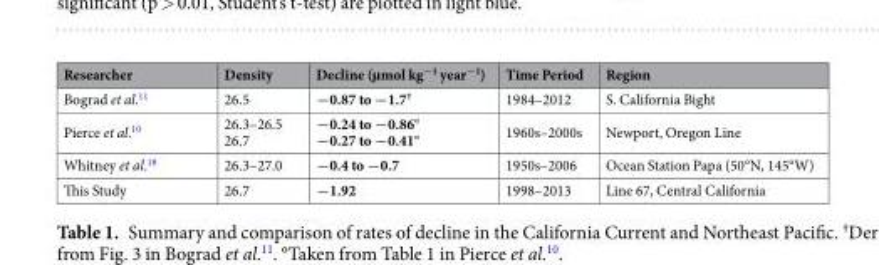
<table><thead><tr><td>Researcher</td><td>Density</td><td>Decline (µmol kg<sup>−1</sup> year<sup>−1</sup>)</td><td>Time Period</td><td>Region</td></tr></thead><tbody><tr><td>Bograd et al.<sup>11</sup></td><td>26.5</td><td>−0.87 to −1.7<sup>†</sup></td><td>1984–2012</td><td>S. California Bight</td></tr><tr><td>Pierce et al.<sup>10</sup></td><td>26.3–26.5 26.7</td><td>−0.24 to −0.86° −0.27 to −0.41°</td><td>1960s–2000s</td><td>Newport, Oregon Line</td></tr><tr><td>Whitney et al.<sup>18</sup></td><td>26.3–27.0</td><td>−0.4 to −0.7</td><td>1950s–2006</td><td>Ocean Station Papa (50°N, 145°W)</td></tr><tr><td>This Study</td><td>26.7</td><td>−1.92</td><td>1998–2013</td><td>Line 67, Central California</td></tr></tbody></table>